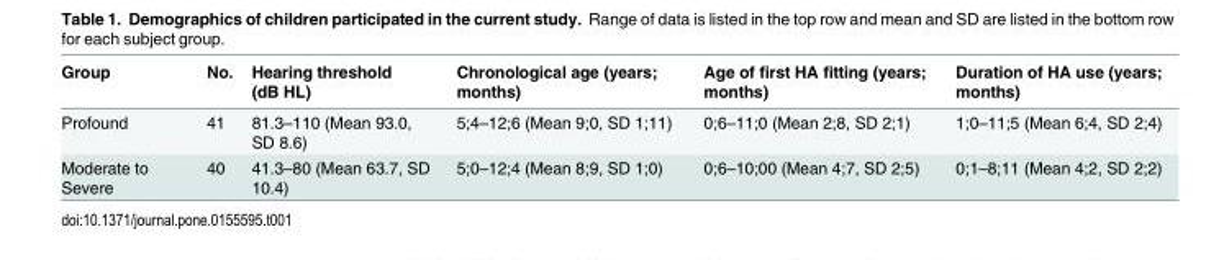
<table><thead><tr><td>Group</td><td>No.</td><td>Hearing threshold (dB HL)</td><td>Chronological age (years; months)</td><td>Age of first HA fitting (years; months)</td><td>Duration of HA use (years; months)</td></tr></thead><tbody><tr><td>Profound</td><td>41</td><td>81.3–110 (Mean 93.0, SD 8.6)</td><td>5;4–12;6 (Mean 9;0, SD 1;11)</td><td>0;6–11;0 (Mean 2;8, SD 2;1)</td><td>1;0–11;5 (Mean 6;4, SD 2;4)</td></tr><tr><td>Moderate to Severe</td><td>40</td><td>41.3–80 (Mean 63.7, SD 10.4)</td><td>5;0–12;4 (Mean 8;9, SD 1;0)</td><td>0;6–10;00 (Mean 4;7, SD 2;5)</td><td>0;1–8;11 (Mean 4;2, SD 2;2)</td></tr></tbody></table>